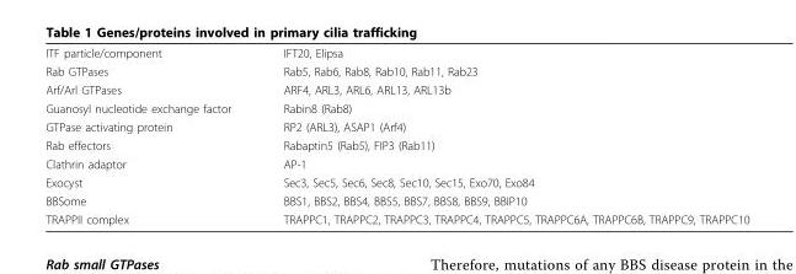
<table><tbody><tr><td>ITF particle/component</td><td>IFT20, Elipsa</td></tr><tr><td>Rab GTPases</td><td>Rab5, Rab6, Rab8, Rab10, Rab11, Rab23</td></tr><tr><td>Arf/Arl GTPases</td><td>ARF4, ARL3, ARL6, ARL13, ARL13b</td></tr><tr><td>Guanosyl nucleotide exchange factor</td><td>Rabin8 (Rab8)</td></tr><tr><td>GTPase activating protein</td><td>RP2 (ARL3), ASAP1 (Arf4)</td></tr><tr><td>Rab effectors</td><td>Rabaptin5 (Rab5), FIP3 (Rab11)</td></tr><tr><td>Clathrin adaptor</td><td>AP-1</td></tr><tr><td>Exocyst</td><td>Sec3, Sec5, Sec6, Sec8, Sec10, Sec15, Exo70, Exo84</td></tr><tr><td>BBSome</td><td>BBS1, BBS2, BBS4, BBS5, BBS7, BBS8, BBS9, BBIP10</td></tr><tr><td>TRAPPII complex</td><td>TRAPPC1, TRAPPC2, TRAPPC3, TRAPPC4, TRAPPC5, TRAPPC6A, TRAPPC6B, TRAPPC9, TRAPPC10</td></tr></tbody></table>